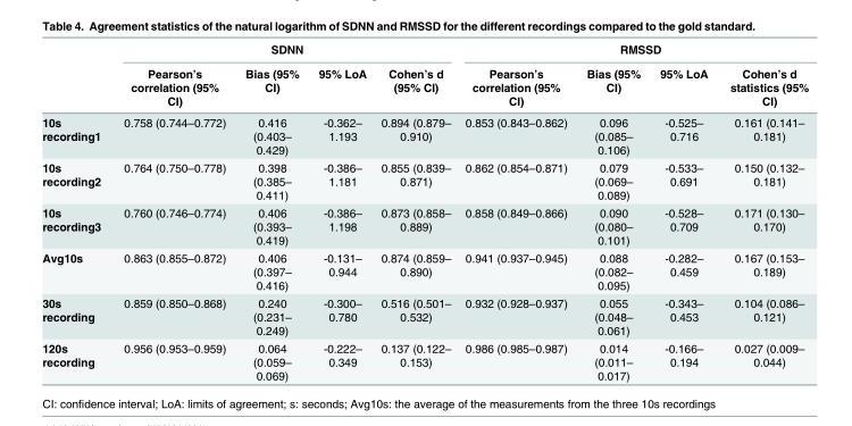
<table><thead><tr><td rowspan="2"></td><td colspan="4">SDNN</td><td colspan="4">RMSSD</td></tr><tr><td>Pearson’s correlation (95% CI)</td><td>Bias (95% CI)</td><td>95% LoA</td><td>Cohen’s d (95% CI)</td><td>Pearson’s correlation (95% CI)</td><td>Bias (95% CI)</td><td>95% LoA</td><td>Cohen’s d statistics (95% CI)</td></tr></thead><tbody><tr><td>10s recording1</td><td>0.758 (0.744–0.772)</td><td>0.416 (0.403– 0.429)</td><td>-0.362– 1.193</td><td>0.894 (0.879– 0.910)</td><td>0.853 (0.843–0.862)</td><td>0.096 (0.085– 0.106)</td><td>-0.525– 0.716</td><td>0.161 (0.141– 0.181)</td></tr><tr><td>10s recording2</td><td>0.764 (0.750–0.778)</td><td>0.398 (0.385– 0.411)</td><td>-0.386– 1.181</td><td>0.855 (0.839– 0.871)</td><td>0.862 (0.854–0.871)</td><td>0.079 (0.069– 0.089)</td><td>-0.533– 0.691</td><td>0.150 (0.132– 0.181)</td></tr><tr><td>10s recording3</td><td>0.760 (0.746–0.774)</td><td>0.406 (0.393– 0.419)</td><td>-0.386– 1.198</td><td>0.873 (0.858– 0.889)</td><td>0.858 (0.849–0.866)</td><td>0.090 (0.080– 0.101)</td><td>-0.528– 0.709</td><td>0.171 (0.130– 0.170)</td></tr><tr><td>Avg10s</td><td>0.863 (0.855–0.872)</td><td>0.406 (0.397– 0.416)</td><td>-0.131– 0.944</td><td>0.874 (0.859– 0.890)</td><td>0.941 (0.937–0.945)</td><td>0.088 (0.082– 0.095)</td><td>-0.282– 0.459</td><td>0.167 (0.153– 0.189)</td></tr><tr><td>30s recording</td><td>0.859 (0.850–0.868)</td><td>0.240 (0.231– 0.249)</td><td>-0.300– 0.780</td><td>0.516 (0.501– 0.532)</td><td>0.932 (0.928–0.937)</td><td>0.055 (0.048– 0.061)</td><td>-0.343– 0.453</td><td>0.104 (0.086– 0.121)</td></tr><tr><td>120s recording</td><td>0.956 (0.953–0.959)</td><td>0.064 (0.059– 0.069)</td><td>-0.222– 0.349</td><td>0.137 (0.122– 0.153)</td><td>0.986 (0.985–0.987)</td><td>0.014 (0.011– 0.017)</td><td>-0.166– 0.194</td><td>0.027 (0.009– 0.044)</td></tr></tbody></table>